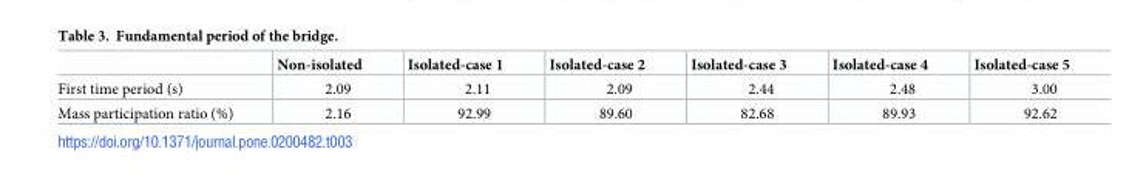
<table><thead><tr><td></td><td>Non-isolated</td><td>Isolated-case 1</td><td>Isolated-case 2</td><td>Isolated-case 3</td><td>Isolated-case 4</td><td>Isolated-case 5</td></tr></thead><tbody><tr><td>First time period (s)</td><td>2.09</td><td>2.11</td><td>2.09</td><td>2.44</td><td>2.48</td><td>3.00</td></tr><tr><td>Mass participation ratio (%)</td><td>2.16</td><td>92.99</td><td>89.60</td><td>82.68</td><td>89.93</td><td>92.62</td></tr></tbody></table>